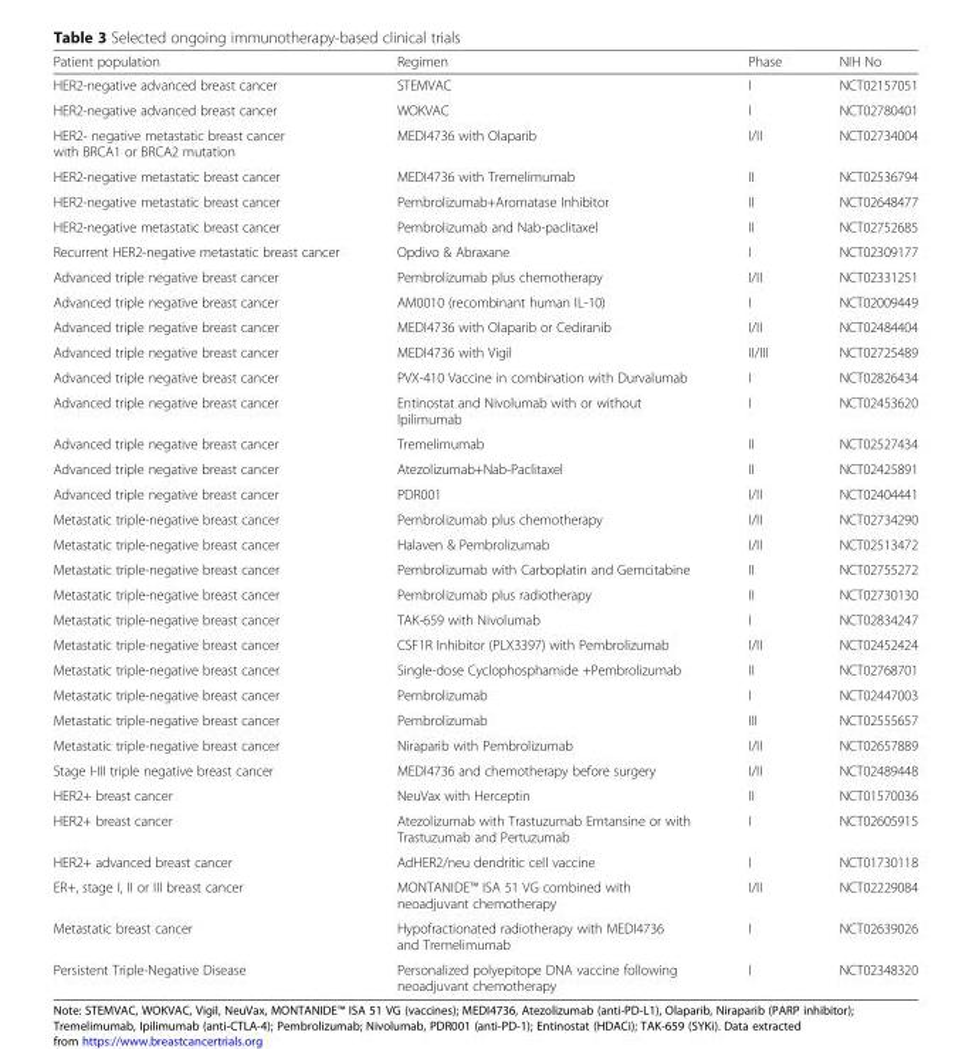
<table><thead><tr><td>Patient population</td><td>Regimen</td><td>Phase</td><td>NIH No</td></tr></thead><tbody><tr><td>HER2-negative advanced breast cancer</td><td>STEMVAC</td><td>I</td><td>NCT02157051</td></tr><tr><td>HER2-negative advanced breast cancer</td><td>WOKVAC</td><td>I</td><td>NCT02780401</td></tr><tr><td>HER2- negative metastatic breast cancer with BRCA1 or BRCA2 mutation</td><td>MEDI4736 with Olaparib</td><td>I/II</td><td>NCT02734004</td></tr><tr><td>HER2-negative metastatic breast cancer</td><td>MEDI4736 with Tremelimumab</td><td>II</td><td>NCT02536794</td></tr><tr><td>HER2-negative metastatic breast cancer</td><td>Pembrolizumab+Aromatase Inhibitor</td><td>II</td><td>NCT02648477</td></tr><tr><td>HER2-negative metastatic breast cancer</td><td>Pembrolizumab and Nab-paclitaxel</td><td>II</td><td>NCT02752685</td></tr><tr><td>Recurrent HER2-negative metastatic breast cancer</td><td>Opdivo &amp; Abraxane</td><td>I</td><td>NCT02309177</td></tr><tr><td>Advanced triple negative breast cancer</td><td>Pembrolizumab plus chemotherapy</td><td>I/II</td><td>NCT02331251</td></tr><tr><td>Advanced triple negative breast cancer</td><td>AM0010 (recombinant human IL-10)</td><td>I</td><td>NCT02009449</td></tr><tr><td>Advanced triple negative breast cancer</td><td>MEDI4736 with Olaparib or Cediranib</td><td>I/II</td><td>NCT02484404</td></tr><tr><td>Advanced triple negative breast cancer</td><td>MEDI4736 with Vigil</td><td>II/III</td><td>NCT02725489</td></tr><tr><td>Advanced triple negative breast cancer</td><td>PVX-410 Vaccine in combination with Durvalumab</td><td>I</td><td>NCT02826434</td></tr><tr><td>Advanced triple negative breast cancer</td><td>Entinostat and Nivolumab with or without Ipilimumab</td><td>I</td><td>NCT02453620</td></tr><tr><td>Advanced triple negative breast cancer</td><td>Tremelimumab</td><td>II</td><td>NCT02527434</td></tr><tr><td>Advanced triple negative breast cancer</td><td>Atezolizumab+Nab-Paclitaxel</td><td>II</td><td>NCT02425891</td></tr><tr><td>Advanced triple negative breast cancer</td><td>PDR001</td><td>I/II</td><td>NCT02404441</td></tr><tr><td>Metastatic triple-negative breast cancer</td><td>Pembrolizumab plus chemotherapy</td><td>I/II</td><td>NCT02734290</td></tr><tr><td>Metastatic triple-negative breast cancer</td><td>Halaven &amp; Pembrolizumab</td><td>I/II</td><td>NCT02513472</td></tr><tr><td>Metastatic triple-negative breast cancer</td><td>Pembrolizumab with Carboplatin and Gemcitabine</td><td>II</td><td>NCT02755272</td></tr><tr><td>Metastatic triple-negative breast cancer</td><td>Pembrolizumab plus radiotherapy</td><td>II</td><td>NCT02730130</td></tr><tr><td>Metastatic triple-negative breast cancer</td><td>TAK-659 with Nivolumab</td><td>I</td><td>NCT02834247</td></tr><tr><td>Metastatic triple-negative breast cancer</td><td>CSF1R Inhibitor (PLX3397) with Pembrolizumab</td><td>I/II</td><td>NCT02452424</td></tr><tr><td>Metastatic triple-negative breast cancer</td><td>Single-dose Cyclophosphamide +Pembrolizumab</td><td>II</td><td>NCT02768701</td></tr><tr><td>Metastatic triple-negative breast cancer</td><td>Pembrolizumab</td><td>I</td><td>NCT02447003</td></tr><tr><td>Metastatic triple-negative breast cancer</td><td>Pembrolizumab</td><td>III</td><td>NCT02555657</td></tr><tr><td>Metastatic triple-negative breast cancer</td><td>Niraparib with Pembrolizumab</td><td>I/II</td><td>NCT02657889</td></tr><tr><td>Stage I-III triple negative breast cancer</td><td>MEDI4736 and chemotherapy before surgery</td><td>I/II</td><td>NCT02489448</td></tr><tr><td>HER2+ breast cancer</td><td>NeuVax with Herceptin</td><td>II</td><td>NCT01570036</td></tr><tr><td>HER2+ breast cancer</td><td>Atezolizumab with Trastuzumab Emtansine or with Trastuzumab and Pertuzumab</td><td>I</td><td>NCT02605915</td></tr><tr><td>HER2+ advanced breast cancer</td><td>AdHER2/neu dendritic cell vaccine</td><td>I</td><td>NCT01730118</td></tr><tr><td>ER+, stage I, II or III breast cancer</td><td>MONTANIDE™ ISA 51 VG combined with neoadjuvant chemotherapy</td><td>I/II</td><td>NCT02229084</td></tr><tr><td>Metastatic breast cancer</td><td>Hypofractionated radiotherapy with MEDI4736 and Tremelimumab</td><td>I</td><td>NCT02639026</td></tr><tr><td>Persistent Triple-Negative Disease</td><td>Personalized polyepitope DNA vaccine following neoadjuvant chemotherapy</td><td>I</td><td>NCT02348320</td></tr></tbody></table>